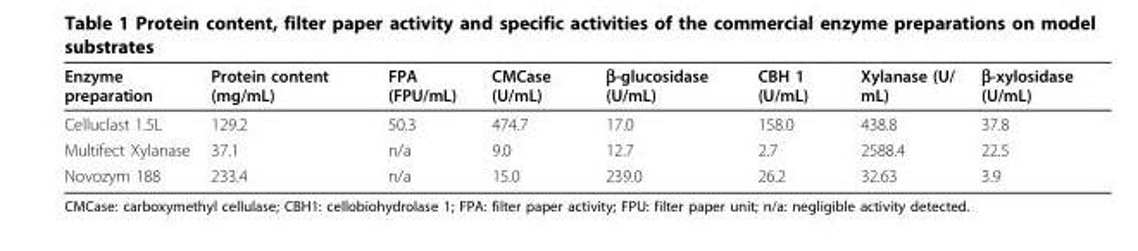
<table><thead><tr><td>Enzyme preparation</td><td>Protein content (mg/mL)</td><td>FPA (FPU/mL)</td><td>CMCase (U/mL)</td><td>β-glucosidase (U/mL)</td><td>CBH 1 (U/mL)</td><td>Xylanase (U/ mL)</td><td>β-xylosidase (U/mL)</td></tr></thead><tbody><tr><td>Celluclast 1.5L</td><td>129.2</td><td>50.3</td><td>474.7</td><td>17.0</td><td>158.0</td><td>438.8</td><td>37.8</td></tr><tr><td>Multifect Xylanase</td><td>37.1</td><td>n/a</td><td>9.0</td><td>12.7</td><td>2.7</td><td>2588.4</td><td>22.5</td></tr><tr><td>Novozym 188</td><td>233.4</td><td>n/a</td><td>15.0</td><td>239.0</td><td>26.2</td><td>32.63</td><td>3.9</td></tr></tbody></table>